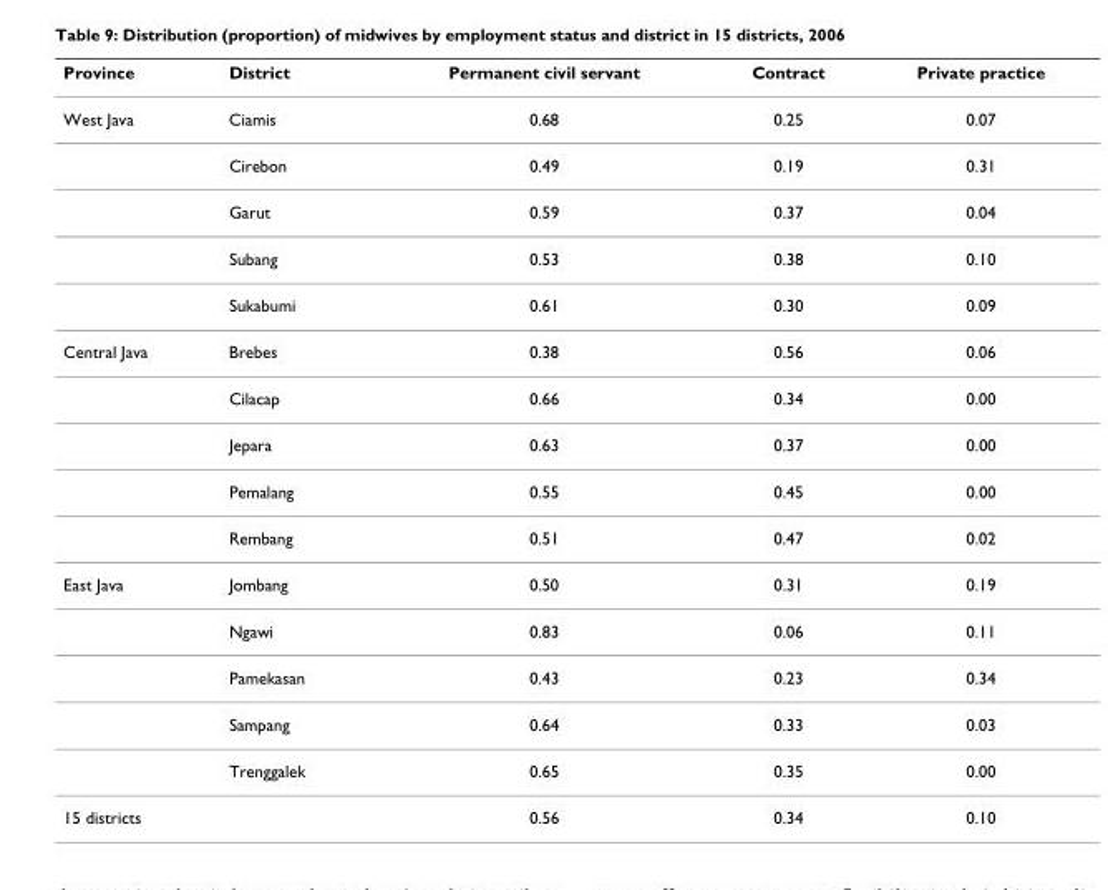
<table><thead><tr><td>Province</td><td>District</td><td>Permanent civil servant</td><td>Contract</td><td>Private practice</td></tr></thead><tbody><tr><td rowspan="5">West Java</td><td>Ciamis</td><td>0.68</td><td>0.25</td><td>0.07</td></tr><tr><td>Cirebon</td><td>0.49</td><td>0.19</td><td>0.31</td></tr><tr><td>Garut</td><td>0.59</td><td>0.37</td><td>0.04</td></tr><tr><td>Subang</td><td>0.53</td><td>0.38</td><td>0.10</td></tr><tr><td>Sukabumi</td><td>0.61</td><td>0.30</td><td>0.09</td></tr><tr><td rowspan="5">Central Java</td><td>Brebes</td><td>0.38</td><td>0.56</td><td>0.06</td></tr><tr><td>Cilacap</td><td>0.66</td><td>0.34</td><td>0.00</td></tr><tr><td>Jepara</td><td>0.63</td><td>0.37</td><td>0.00</td></tr><tr><td>Pemalang</td><td>0.55</td><td>0.45</td><td>0.00</td></tr><tr><td>Rembang</td><td>0.51</td><td>0.47</td><td>0.02</td></tr><tr><td rowspan="5">East Java</td><td>Jombang</td><td>0.50</td><td>0.31</td><td>0.19</td></tr><tr><td>Ngawi</td><td>0.83</td><td>0.06</td><td>0.11</td></tr><tr><td>Pamekasan</td><td>0.43</td><td>0.23</td><td>0.34</td></tr><tr><td>Sampang</td><td>0.64</td><td>0.33</td><td>0.03</td></tr><tr><td>Trenggalek</td><td>0.65</td><td>0.35</td><td>0.00</td></tr><tr><td>15 districts</td><td></td><td>0.56</td><td>0.34</td><td>0.10</td></tr></tbody></table>